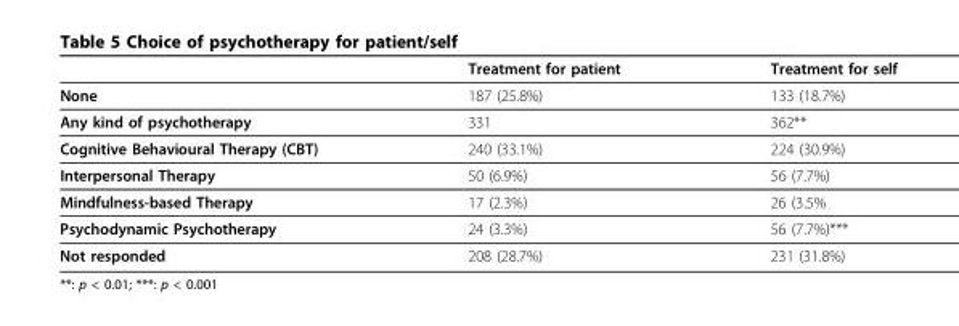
<table><thead><tr><td></td><td>Treatment for patient</td><td>Treatment for self</td></tr></thead><tbody><tr><td>None</td><td>187 (25.8%)</td><td>133 (18.7%)</td></tr><tr><td>Any kind of psychotherapy</td><td>331</td><td>362**</td></tr><tr><td>Cognitive Behavioural Therapy (CBT)</td><td>240 (33.1%)</td><td>224 (30.9%)</td></tr><tr><td>Interpersonal Therapy</td><td>50 (6.9%)</td><td>56 (7.7%)</td></tr><tr><td>Mindfulness-based Therapy</td><td>17 (2.3%)</td><td>26 (3.5%</td></tr><tr><td>Psychodynamic Psychotherapy</td><td>24 (3.3%)</td><td>56 (7.7%)***</td></tr><tr><td>Not responded</td><td>208 (28.7%)</td><td>231 (31.8%)</td></tr></tbody></table>